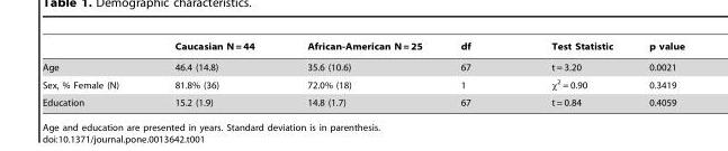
<table><thead><tr><td></td><td>Caucasian N = 44</td><td>African-American N = 25</td><td>df</td><td>Test Statistic</td><td>p value</td></tr></thead><tbody><tr><td>Age</td><td>46.4 (14.8)</td><td>35.6 (10.6)</td><td>67</td><td>t = 3.20</td><td>0.0021</td></tr><tr><td>Sex, % Female (N)</td><td>81.8% (36)</td><td>72.0% (18)</td><td>1</td><td>χ<sup>2</sup> = 0.90</td><td>0.3419</td></tr><tr><td>Education</td><td>15.2 (1.9)</td><td>14.8 (1.7)</td><td>67</td><td>t = 0.84</td><td>0.4059</td></tr></tbody></table>